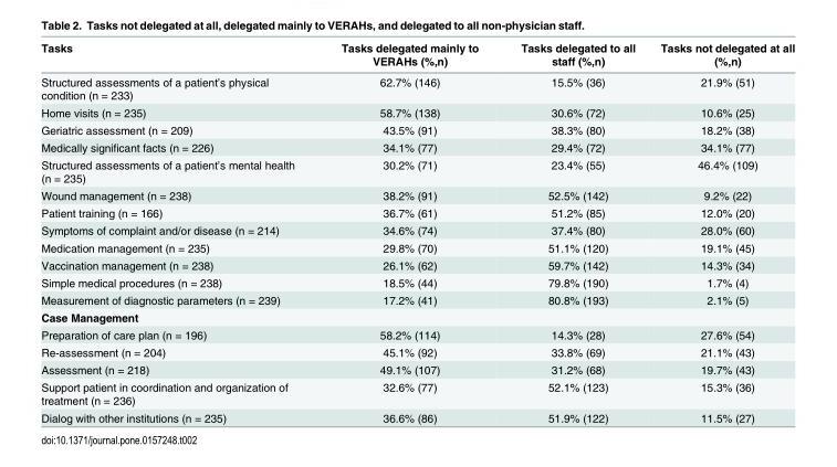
<table><thead><tr><td>Tasks</td><td>Tasks delegated mainly to VERAHs (%,n)</td><td>Tasks delegated to all staff (%,n)</td><td>Tasks not delegated at all (%,n)</td></tr></thead><tbody><tr><td>Structured assessments of a patient’s physical condition (n = 233)</td><td>62.7% (146)</td><td>15.5% (36)</td><td>21.9% (51)</td></tr><tr><td>Home visits (n = 235)</td><td>58.7% (138)</td><td>30.6% (72)</td><td>10.6% (25)</td></tr><tr><td>Geriatric assessment (n = 209)</td><td>43.5% (91)</td><td>38.3% (80)</td><td>18.2% (38)</td></tr><tr><td>Medically significant facts (n = 226)</td><td>34.1% (77)</td><td>29.4% (72)</td><td>34.1% (77)</td></tr><tr><td>Structured assessments of a patient’s mental health (n = 235)</td><td>30.2% (71)</td><td>23.4% (55)</td><td>46.4% (109)</td></tr><tr><td>Wound management (n = 238)</td><td>38.2% (91)</td><td>52.5% (142)</td><td>9.2% (22)</td></tr><tr><td>Patient training (n = 166)</td><td>36.7% (61)</td><td>51.2% (85)</td><td>12.0% (20)</td></tr><tr><td>Symptoms of complaint and/or disease (n = 214)</td><td>34.6% (74)</td><td>37.4% (80)</td><td>28.0% (60)</td></tr><tr><td>Medication management (n = 235)</td><td>29.8% (70)</td><td>51.1% (120)</td><td>19.1% (45)</td></tr><tr><td>Vaccination management (n = 238)</td><td>26.1% (62)</td><td>59.7% (142)</td><td>14.3% (34)</td></tr><tr><td>Simple medical procedures (n = 238)</td><td>18.5% (44)</td><td>79.8% (190)</td><td>1.7% (4)</td></tr><tr><td>Measurement of diagnostic parameters (n = 239)</td><td>17.2% (41)</td><td>80.8% (193)</td><td>2.1% (5)</td></tr><tr><td colspan="4">Case Management</td></tr><tr><td>Preparation of care plan (n = 196)</td><td>58.2% (114)</td><td>14.3% (28)</td><td>27.6% (54)</td></tr><tr><td>Re-assessment (n = 204)</td><td>45.1% (92)</td><td>33.8% (69)</td><td>21.1% (43)</td></tr><tr><td>Assessment (n = 218)</td><td>49.1% (107)</td><td>31.2% (68)</td><td>19.7% (43)</td></tr><tr><td>Support patient in coordination and organization of treatment (n = 236)</td><td>32.6% (77)</td><td>52.1% (123)</td><td>15.3% (36)</td></tr><tr><td>Dialog with other institutions (n = 235)</td><td>36.6% (86)</td><td>51.9% (122)</td><td>11.5% (27)</td></tr></tbody></table>